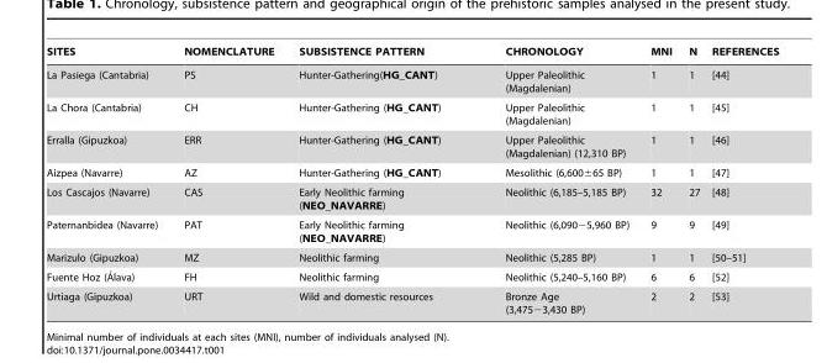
<table><thead><tr><td>SITES</td><td>NOMENCLATURE</td><td>SUBSISTENCE PATTERN</td><td>CHRONOLOGY</td><td>MNI</td><td>N</td><td>REFERENCES</td></tr></thead><tbody><tr><td>La Pasiega (Cantabria)</td><td>PS</td><td>Hunter-Gathering(HG_CANT)</td><td>Upper Paleolithic (Magdalenian)</td><td>1</td><td>1</td><td>[44]</td></tr><tr><td>La Chora (Cantabria)</td><td>CH</td><td>Hunter-Gathering (HG_CANT)</td><td>Upper Paleolithic (Magdalenian)</td><td>1</td><td>1</td><td>[45]</td></tr><tr><td>Erralla (Gipuzkoa)</td><td>ERR</td><td>Hunter-Gathering (HG_CANT)</td><td>Upper Paleolithic (Magdalenian) (12,310 BP)</td><td>1</td><td>1</td><td>[46]</td></tr><tr><td>Aizpea (Navarre)</td><td>AZ</td><td>Hunter-Gathering (HG_CANT)</td><td>Mesolithic (6,600±65 BP)</td><td>1</td><td>1</td><td>[47]</td></tr><tr><td>Los Cascajos (Navarre)</td><td>CAS</td><td>Early Neolithic farming (NEO_NAVARRE)</td><td>Neolithic (6,185–5,185 BP)</td><td>32</td><td>27</td><td>[48]</td></tr><tr><td>Paternanbidea (Navarre)</td><td>PAT</td><td>Early Neolithic farming (NEO_NAVARRE)</td><td>Neolithic (6,090−5,960 BP)</td><td>9</td><td>9</td><td>[49]</td></tr><tr><td>Marizulo (Gipuzkoa)</td><td>MZ</td><td>Neolithic farming</td><td>Neolithic (5,285 BP)</td><td>1</td><td>1</td><td>[50–51]</td></tr><tr><td>Fuente Hoz (A´ lava)</td><td>FH</td><td>Neolithic farming</td><td>Neolithic (5,240–5,160 BP)</td><td>6</td><td>6</td><td>[52]</td></tr><tr><td>Urtiaga (Gipuzkoa)</td><td>URT</td><td>Wild and domestic resources</td><td>Bronze Age (3,475−3,430 BP)</td><td>2</td><td>2</td><td>[53]</td></tr></tbody></table>